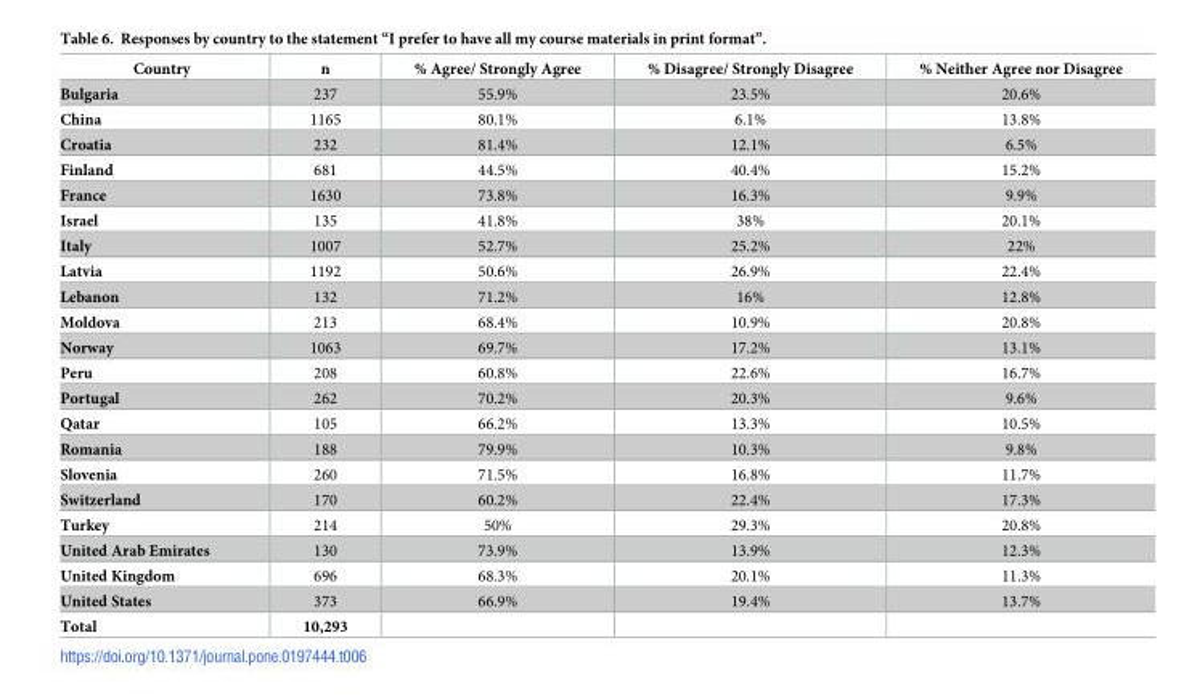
<table><thead><tr><td>Country</td><td>n</td><td>% Agree/ Strongly Agree</td><td>% Disagree/ Strongly Disagree</td><td>% Neither Agree nor Disagree</td></tr></thead><tbody><tr><td>Bulgaria</td><td>237</td><td>55.9%</td><td>23.5%</td><td>20.6%</td></tr><tr><td>China</td><td>1165</td><td>80.1%</td><td>6.1%</td><td>13.8%</td></tr><tr><td>Croatia</td><td>232</td><td>81.4%</td><td>12.1%</td><td>6.5%</td></tr><tr><td>Finland</td><td>681</td><td>44.5%</td><td>40.4%</td><td>15.2%</td></tr><tr><td>France</td><td>1630</td><td>73.8%</td><td>16.3%</td><td>9.9%</td></tr><tr><td>Israel</td><td>135</td><td>41.8%</td><td>38%</td><td>20.1%</td></tr><tr><td>Italy</td><td>1007</td><td>52.7%</td><td>25.2%</td><td>22%</td></tr><tr><td>Latvia</td><td>1192</td><td>50.6%</td><td>26.9%</td><td>22.4%</td></tr><tr><td>Lebanon</td><td>132</td><td>71.2%</td><td>16%</td><td>12.8%</td></tr><tr><td>Moldova</td><td>213</td><td>68.4%</td><td>10.9%</td><td>20.8%</td></tr><tr><td>Norway</td><td>1063</td><td>69.7%</td><td>17.2%</td><td>13.1%</td></tr><tr><td>Peru</td><td>208</td><td>60.8%</td><td>22.6%</td><td>16.7%</td></tr><tr><td>Portugal</td><td>262</td><td>70.2%</td><td>20.3%</td><td>9.6%</td></tr><tr><td>Qatar</td><td>105</td><td>66.2%</td><td>13.3%</td><td>10.5%</td></tr><tr><td>Romania</td><td>188</td><td>79.9%</td><td>10.3%</td><td>9.8%</td></tr><tr><td>Slovenia</td><td>260</td><td>71.5%</td><td>16.8%</td><td>11.7%</td></tr><tr><td>Switzerland</td><td>170</td><td>60.2%</td><td>22.4%</td><td>17.3%</td></tr><tr><td>Turkey</td><td>214</td><td>50%</td><td>29.3%</td><td>20.8%</td></tr><tr><td>United Arab Emirates</td><td>130</td><td>73.9%</td><td>13.9%</td><td>12.3%</td></tr><tr><td>United Kingdom</td><td>696</td><td>68.3%</td><td>20.1%</td><td>11.3%</td></tr><tr><td>United States</td><td>373</td><td>66.9%</td><td>19.4%</td><td>13.7%</td></tr><tr><td>Total</td><td>10,293</td><td></td><td></td><td></td></tr></tbody></table>